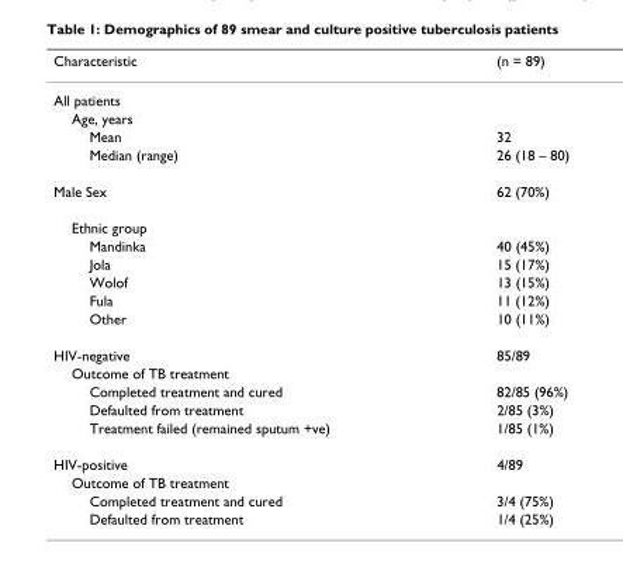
<table><thead><tr><td>Characteristic</td><td>(n = 89)</td></tr></thead><tbody><tr><td colspan="2">All patients</td></tr><tr><td colspan="2">Age, years</td></tr><tr><td>Mean</td><td>32</td></tr><tr><td>Median (range)</td><td>26 (18 – 80)</td></tr><tr><td>Male Sex</td><td>62 (70%)</td></tr><tr><td colspan="2">Ethnic group</td></tr><tr><td>Mandinka</td><td>40 (45%)</td></tr><tr><td>Jola</td><td>15 (17%)</td></tr><tr><td>Wolof</td><td>13 (15%)</td></tr><tr><td>Fula</td><td>11 (12%)</td></tr><tr><td>Other</td><td>10 (11%)</td></tr><tr><td>HIV-negative</td><td>85/89</td></tr><tr><td colspan="2">Outcome of TB treatment</td></tr><tr><td>Completed treatment and cured</td><td>82/85 (96%)</td></tr><tr><td>Defaulted from treatment</td><td>2/85 (3%)</td></tr><tr><td>Treatment failed (remained sputum +ve)</td><td>1/85 (1%)</td></tr><tr><td>HIV-positive</td><td>4/89</td></tr><tr><td colspan="2">Outcome of TB treatment</td></tr><tr><td>Completed treatment and cured</td><td>3/4 (75%)</td></tr><tr><td>Defaulted from treatment</td><td>1/4 (25%)</td></tr></tbody></table>